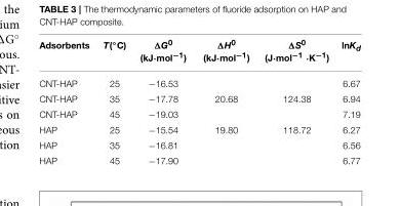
<table><thead><tr><td>Adsorbents</td><td>T(◦C)</td><td>ΔG<sup>0</sup> (kJ·mol<sup>−1</sup>)</td><td>ΔH<sup>0</sup> (kJ·mol<sup>−1</sup>)</td><td>ΔS<sup>0</sup> (J·mol<sup>−1</sup> ·K<sup>−1</sup>)</td><td>lnKd</td></tr></thead><tbody><tr><td>CNT-HAP</td><td>25</td><td>−16.53</td><td></td><td></td><td>6.67</td></tr><tr><td>CNT-HAP</td><td>35</td><td>−17.78</td><td>20.68</td><td>124.38</td><td>6.94</td></tr><tr><td>CNT-HAP</td><td>45</td><td>−19.03</td><td></td><td></td><td>7.19</td></tr><tr><td>HAP</td><td>25</td><td>−15.54</td><td>19.80</td><td>118.72</td><td>6.27</td></tr><tr><td>HAP</td><td>35</td><td>−16.81</td><td></td><td></td><td>6.56</td></tr><tr><td>HAP</td><td>45</td><td>−17.90</td><td></td><td></td><td>6.77</td></tr></tbody></table>